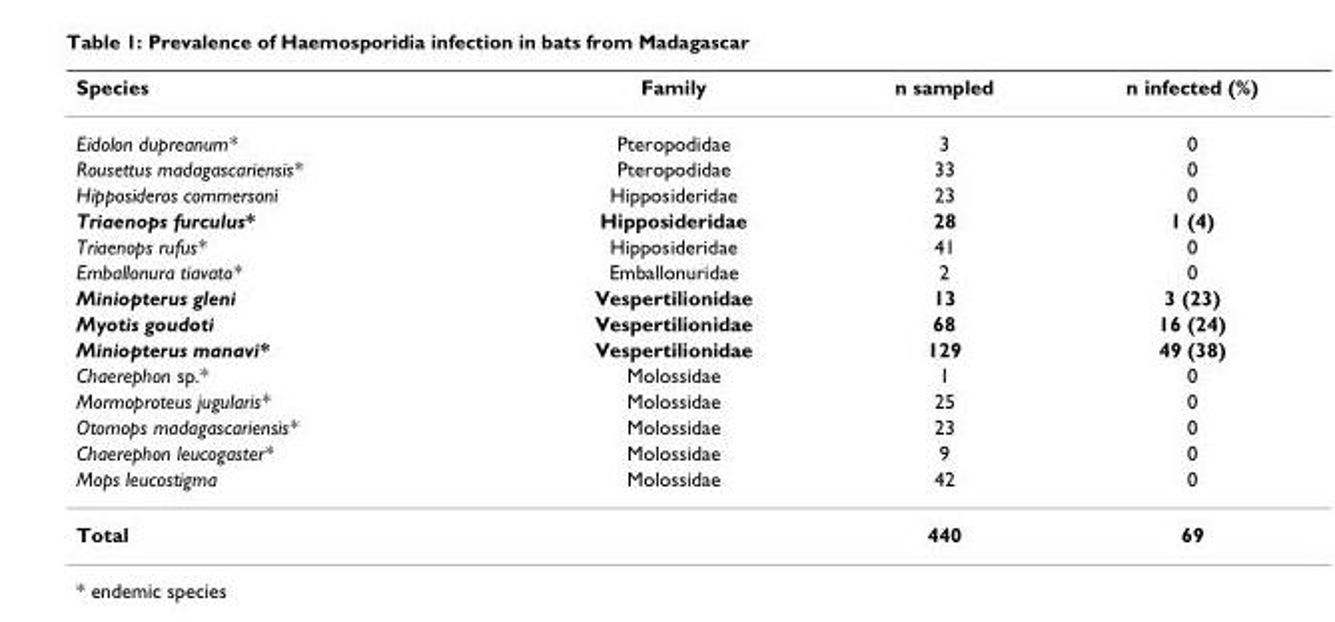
<table><thead><tr><td>Species</td><td>Family</td><td>n sampled</td><td>n infected (%)</td></tr></thead><tbody><tr><td>Eidolon dupreanum*</td><td>Pteropodidae</td><td>3</td><td>0</td></tr><tr><td>Rousettus madagascariensis*</td><td>Pteropodidae</td><td>33</td><td>0</td></tr><tr><td>Hipposideros commersoni</td><td>Hipposideridae</td><td>23</td><td>0</td></tr><tr><td>Triaenops furculus*</td><td>Hipposideridae</td><td>28</td><td>1 (4)</td></tr><tr><td>Triaenops rufus*</td><td>Hipposideridae</td><td>41</td><td>0</td></tr><tr><td>Emballonura tiavato*</td><td>Emballonuridae</td><td>2</td><td>0</td></tr><tr><td>Miniopterus gleni</td><td>Vespertilionidae</td><td>13</td><td>3 (23)</td></tr><tr><td>Myotis goudoti</td><td>Vespertilionidae</td><td>68</td><td>16 (24)</td></tr><tr><td>Miniopterus manavi*</td><td>Vespertilionidae</td><td>129</td><td>49 (38)</td></tr><tr><td>Chaerephon sp.*</td><td>Molossidae</td><td>1</td><td>0</td></tr><tr><td>Mormoproteus jugularis*</td><td>Molossidae</td><td>25</td><td>0</td></tr><tr><td>Otomops madagascariensis*</td><td>Molossidae</td><td>23</td><td>0</td></tr><tr><td>Chaerephon leucogaster*</td><td>Molossidae</td><td>9</td><td>0</td></tr><tr><td>Mops leucostigma</td><td>Molossidae</td><td>42</td><td>0</td></tr><tr><td colspan="2">Total</td><td>440</td><td>69</td></tr></tbody></table>